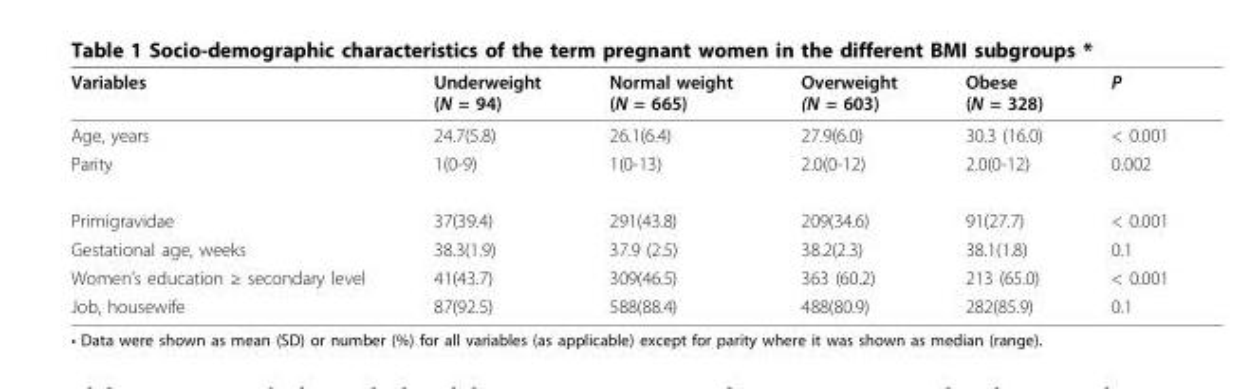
<table><thead><tr><td>Variables</td><td>Underweight (N = 94)</td><td>Normal weight (N = 665)</td><td>Overweight (N = 603)</td><td>Obese (N = 328)</td><td>P</td></tr></thead><tbody><tr><td>Age, years</td><td>24.7(5.8)</td><td>26.1(6.4)</td><td>27.9(6.0)</td><td>30.3 (16.0)</td><td>&lt; 0.001</td></tr><tr><td>Parity</td><td>1(0-9)</td><td>1(0-13)</td><td>2.0(0-12)</td><td>2.0(0-12)</td><td>0.002</td></tr><tr><td>Primigravidae</td><td>37(39.4)</td><td>291(43.8)</td><td>209(34.6)</td><td>91(27.7)</td><td>&lt; 0.001</td></tr><tr><td>Gestational age, weeks</td><td>38.3(1.9)</td><td>37.9 (2.5)</td><td>38.2(2.3)</td><td>38.1(1.8)</td><td>0.1</td></tr><tr><td>Women’s education ≥ secondary level</td><td>41(43.7)</td><td>309(46.5)</td><td>363 (60.2)</td><td>213 (65.0)</td><td>&lt; 0.001</td></tr><tr><td>Job, housewife</td><td>87(92.5)</td><td>588(88.4)</td><td>488(80.9)</td><td>282(85.9)</td><td>0.1</td></tr></tbody></table>